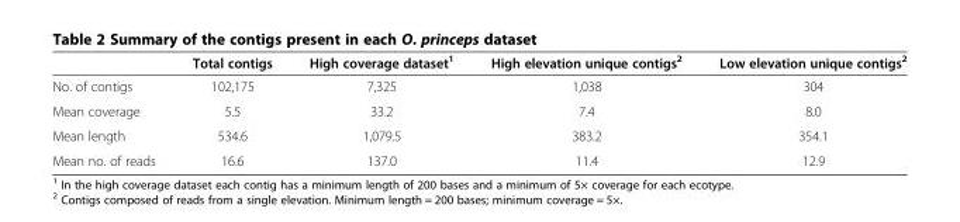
<table><thead><tr><td></td><td>Total contigs</td><td>High coverage dataset<sup>1</sup></td><td>High elevation unique contigs<sup>2</sup></td><td>Low elevation unique contigs<sup>2</sup></td></tr></thead><tbody><tr><td>No. of contigs</td><td>102,175</td><td>7,325</td><td>1,038</td><td>304</td></tr><tr><td>Mean coverage</td><td>5.5</td><td>33.2</td><td>7.4</td><td>8.0</td></tr><tr><td>Mean length</td><td>534.6</td><td>1,079.5</td><td>383.2</td><td>354.1</td></tr><tr><td>Mean no. of reads</td><td>16.6</td><td>137.0</td><td>11.4</td><td>12.9</td></tr></tbody></table>